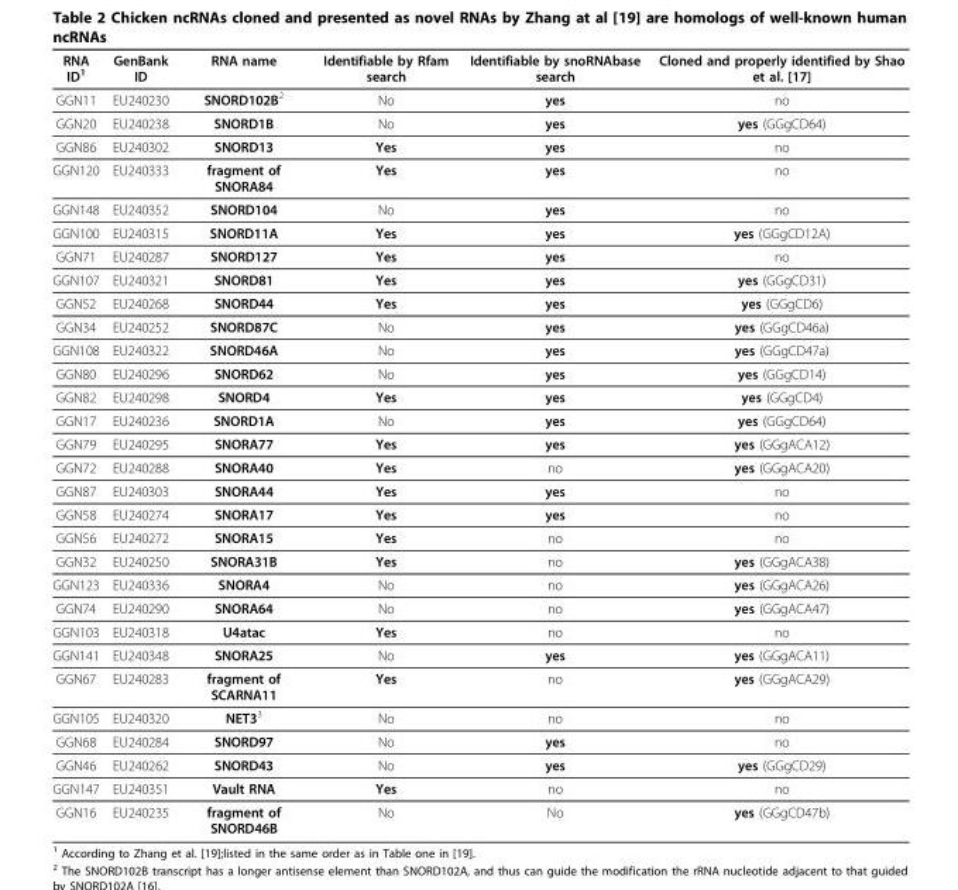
<table><thead><tr><td>RNA ID<sup>1</sup></td><td>GenBank ID</td><td>RNA name</td><td>Identifiable by Rfam search</td><td>Identifiable by snoRNAbase search</td><td>Cloned and properly identified by Shao et al. [17]</td></tr></thead><tbody><tr><td>GGN11</td><td>EU240230</td><td>SNORD102B<sup>2</sup></td><td>No</td><td>yes</td><td>no</td></tr><tr><td>GGN20</td><td>EU240238</td><td>SNORD1B</td><td>No</td><td>yes</td><td>yes (GGgCD64)</td></tr><tr><td>GGN86</td><td>EU240302</td><td>SNORD13</td><td>Yes</td><td>yes</td><td>no</td></tr><tr><td>GGN120</td><td>EU240333</td><td>fragment of SNORA84</td><td>Yes</td><td>yes</td><td>no</td></tr><tr><td>GGN148</td><td>EU240352</td><td>SNORD104</td><td>No</td><td>yes</td><td>no</td></tr><tr><td>GGN100</td><td>EU240315</td><td>SNORD11A</td><td>Yes</td><td>yes</td><td>yes (GGgCD12A)</td></tr><tr><td>GGN71</td><td>EU240287</td><td>SNORD127</td><td>Yes</td><td>yes</td><td>no</td></tr><tr><td>GGN107</td><td>EU240321</td><td>SNORD81</td><td>Yes</td><td>yes</td><td>yes (GGgCD31)</td></tr><tr><td>GGN52</td><td>EU240268</td><td>SNORD44</td><td>Yes</td><td>yes</td><td>yes (GGgCD6)</td></tr><tr><td>GGN34</td><td>EU240252</td><td>SNORD87C</td><td>No</td><td>yes</td><td>yes (GGgCD46a)</td></tr><tr><td>GGN108</td><td>EU240322</td><td>SNORD46A</td><td>No</td><td>yes</td><td>yes (GGgCD47a)</td></tr><tr><td>GGN80</td><td>EU240296</td><td>SNORD62</td><td>No</td><td>yes</td><td>yes (GGgCD14)</td></tr><tr><td>GGN82</td><td>EU240298</td><td>SNORD4</td><td>Yes</td><td>yes</td><td>yes (GGgCD4)</td></tr><tr><td>GGN17</td><td>EU240236</td><td>SNORD1A</td><td>No</td><td>yes</td><td>yes (GGgCD64)</td></tr><tr><td>GGN79</td><td>EU240295</td><td>SNORA77</td><td>Yes</td><td>yes</td><td>yes (GGgACA12)</td></tr><tr><td>GGN72</td><td>EU240288</td><td>SNORA40</td><td>Yes</td><td>no</td><td>yes (GGgACA20)</td></tr><tr><td>GGN87</td><td>EU240303</td><td>SNORA44</td><td>Yes</td><td>yes</td><td>no</td></tr><tr><td>GGN58</td><td>EU240274</td><td>SNORA17</td><td>Yes</td><td>yes</td><td>no</td></tr><tr><td>GGN56</td><td>EU240272</td><td>SNORA15</td><td>Yes</td><td>no</td><td>no</td></tr><tr><td>GGN32</td><td>EU240250</td><td>SNORA31B</td><td>Yes</td><td>no</td><td>yes (GGgACA38)</td></tr><tr><td>GGN123</td><td>EU240336</td><td>SNORA4</td><td>No</td><td>no</td><td>yes (GGgACA26)</td></tr><tr><td>GGN74</td><td>EU240290</td><td>SNORA64</td><td>No</td><td>no</td><td>yes (GGgACA47)</td></tr><tr><td>GGN103</td><td>EU240318</td><td>U4atac</td><td>Yes</td><td>no</td><td>no</td></tr><tr><td>GGN141</td><td>EU240348</td><td>SNORA25</td><td>No</td><td>yes</td><td>yes (GGgACA11)</td></tr><tr><td>GGN67</td><td>EU240283</td><td>fragment of SCARNA11</td><td>Yes</td><td>no</td><td>yes (GGgACA29)</td></tr><tr><td>GGN105</td><td>EU240320</td><td>NET3<sup>3</sup></td><td>No</td><td>no</td><td>no</td></tr><tr><td>GGN68</td><td>EU240284</td><td>SNORD97</td><td>No</td><td>yes</td><td>no</td></tr><tr><td>GGN46</td><td>EU240262</td><td>SNORD43</td><td>No</td><td>yes</td><td>yes (GGgCD29)</td></tr><tr><td>GGN147</td><td>EU240351</td><td>Vault RNA</td><td>Yes</td><td>no</td><td>no</td></tr><tr><td>GGN16</td><td>EU240235</td><td>fragment of SNORD46B</td><td>No</td><td>No</td><td>yes (GGgCD47b)</td></tr></tbody></table>